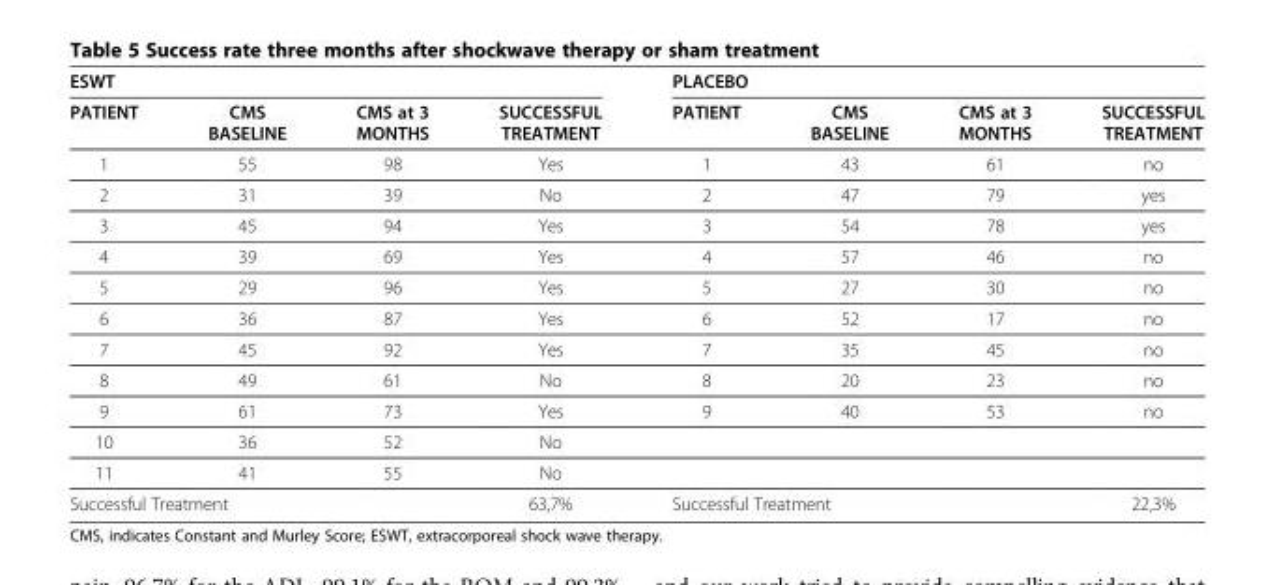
<table><thead><tr><td colspan="4">ESWT</td><td colspan="4">PLACEBO</td></tr><tr><td>PATIENT</td><td>CMS BASELINE</td><td>CMS at 3 MONTHS</td><td>SUCCESSFUL TREATMENT</td><td>PATIENT</td><td>CMS BASELINE</td><td>CMS at 3 MONTHS</td><td>SUCCESSFUL TREATMENT</td></tr></thead><tbody><tr><td>1</td><td>55</td><td>98</td><td>Yes</td><td>1</td><td>43</td><td>61</td><td>no</td></tr><tr><td>2</td><td>31</td><td>39</td><td>No</td><td>2</td><td>47</td><td>79</td><td>yes</td></tr><tr><td>3</td><td>45</td><td>94</td><td>Yes</td><td>3</td><td>54</td><td>78</td><td>yes</td></tr><tr><td>4</td><td>39</td><td>69</td><td>Yes</td><td>4</td><td>57</td><td>46</td><td>no</td></tr><tr><td>5</td><td>29</td><td>96</td><td>Yes</td><td>5</td><td>27</td><td>30</td><td>no</td></tr><tr><td>6</td><td>36</td><td>87</td><td>Yes</td><td>6</td><td>52</td><td>17</td><td>no</td></tr><tr><td>7</td><td>45</td><td>92</td><td>Yes</td><td>7</td><td>35</td><td>45</td><td>no</td></tr><tr><td>8</td><td>49</td><td>61</td><td>No</td><td>8</td><td>20</td><td>23</td><td>no</td></tr><tr><td>9</td><td>61</td><td>73</td><td>Yes</td><td>9</td><td>40</td><td>53</td><td>no</td></tr><tr><td>10</td><td>36</td><td>52</td><td>No</td><td></td><td></td><td></td><td></td></tr><tr><td>11</td><td>41</td><td>55</td><td>No</td><td></td><td></td><td></td><td></td></tr><tr><td colspan="3">Successful Treatment</td><td>63,7%</td><td colspan="3">Successful Treatment</td><td>22,3%</td></tr></tbody></table>